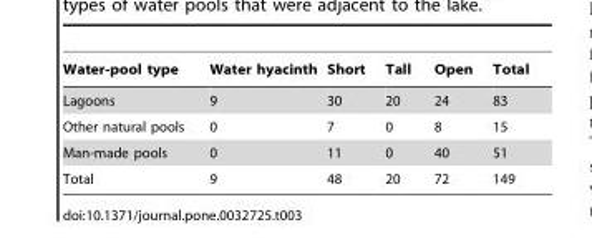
<table><thead><tr><td>Water-pool type</td><td>Water hyacinth</td><td>Short</td><td>Tall</td><td>Open</td><td>Total</td></tr></thead><tbody><tr><td>Lagoons</td><td>9</td><td>30</td><td>20</td><td>24</td><td>83</td></tr><tr><td>Other natural pools</td><td>0</td><td>7</td><td>0</td><td>8</td><td>15</td></tr><tr><td>Man-made pools</td><td>0</td><td>11</td><td>0</td><td>40</td><td>51</td></tr><tr><td>Total</td><td>9</td><td>48</td><td>20</td><td>72</td><td>149</td></tr></tbody></table>